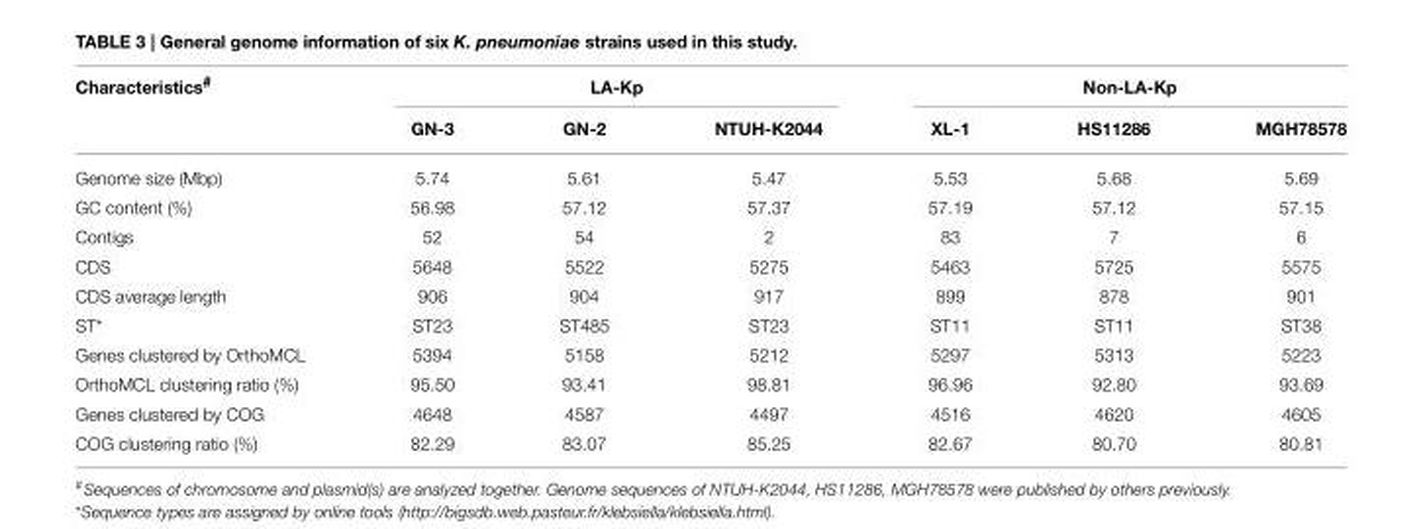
<table><thead><tr><td rowspan="2">Characteristics<sup>#</sup></td><td colspan="3">LA-Kp</td><td colspan="3">Non-LA-Kp</td></tr><tr><td>GN-3</td><td>GN-2</td><td>NTUH-K2044</td><td>XL-1</td><td>HS11286</td><td>MGH78578</td></tr></thead><tbody><tr><td>Genome size (Mbp)</td><td>5.74</td><td>5.61</td><td>5.47</td><td>5.53</td><td>5.68</td><td>5.69</td></tr><tr><td>GC content (%)</td><td>56.98</td><td>57.12</td><td>57.37</td><td>57.19</td><td>57.12</td><td>57.15</td></tr><tr><td>Contigs</td><td>52</td><td>54</td><td>2</td><td>83</td><td>7</td><td>6</td></tr><tr><td>CDS</td><td>5648</td><td>5522</td><td>5275</td><td>5463</td><td>5725</td><td>5575</td></tr><tr><td>CDS average length</td><td>906</td><td>904</td><td>917</td><td>899</td><td>878</td><td>901</td></tr><tr><td>ST*</td><td>ST23</td><td>ST485</td><td>ST23</td><td>ST11</td><td>ST11</td><td>ST38</td></tr><tr><td>Genes clustered by OrthoMCL</td><td>5394</td><td>5158</td><td>5212</td><td>5297</td><td>5313</td><td>5223</td></tr><tr><td>OrthoMCL clustering ratio (%)</td><td>95.50</td><td>93.41</td><td>98.81</td><td>96.96</td><td>92.80</td><td>93.69</td></tr><tr><td>Genes clustered by COG</td><td>4648</td><td>4587</td><td>4497</td><td>4516</td><td>4620</td><td>4605</td></tr><tr><td>COG clustering ratio (%)</td><td>82.29</td><td>83.07</td><td>85.25</td><td>82.67</td><td>80.70</td><td>80.81</td></tr></tbody></table>